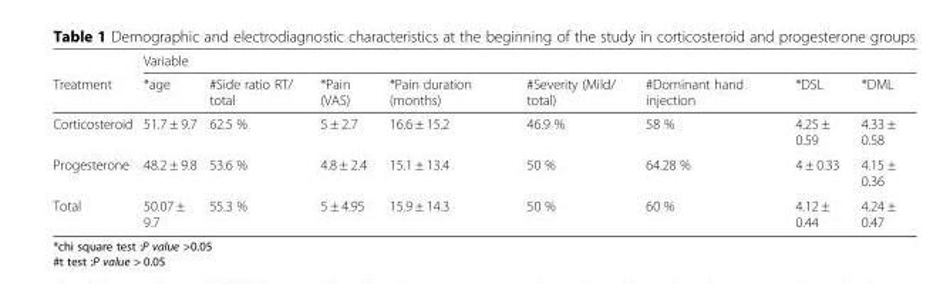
<table><thead><tr><td rowspan="2">Treatment</td><td colspan="8">Variable</td></tr><tr><td>*age</td><td>#Side ratio RT/ total</td><td>*Pain (VAS)</td><td>*Pain duration (months)</td><td>#Severity (Mild/ total)</td><td>#Dominant hand injection</td><td>*DSL</td><td>*DML</td></tr></thead><tbody><tr><td>Corticosteroid</td><td>51.7 ± 9.7</td><td>62.5 %</td><td>5 ± 2.7</td><td>16.6 ± 15.2</td><td>46.9 %</td><td>58 %</td><td>4.25 ± 0.59</td><td>4.33 ± 0.58</td></tr><tr><td>Progesterone</td><td>48.2 ± 9.8</td><td>53.6 %</td><td>4.8 ± 2.4</td><td>15.1 ± 13.4</td><td>50 %</td><td>64.28 %</td><td>4 ± 0.33</td><td>4.15 ± 0.36</td></tr><tr><td>Total</td><td>50.07 ± 9.7</td><td>55.3 %</td><td>5 ± 4.95</td><td>15.9 ± 14.3</td><td>50 %</td><td>60 %</td><td>4.12 ± 0.44</td><td>4.24 ± 0.47</td></tr></tbody></table>